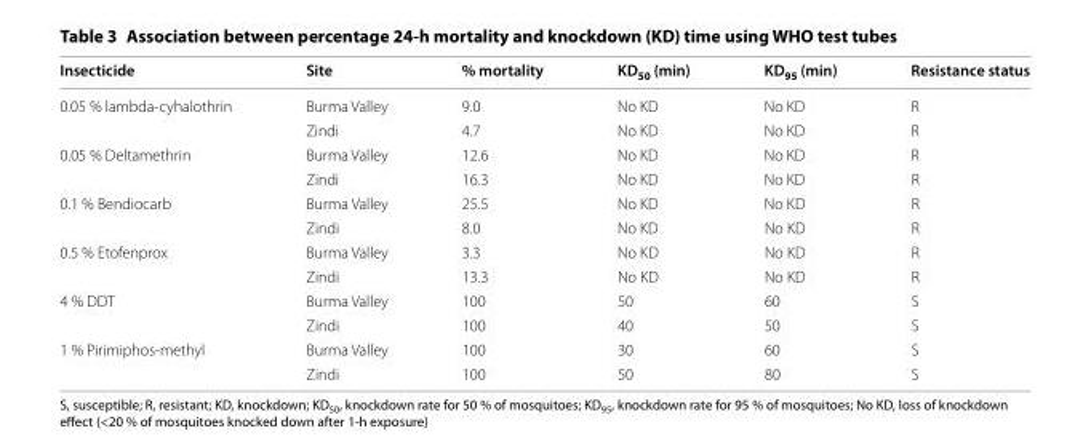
<table><thead><tr><td>Insecticide</td><td>Site</td><td>% mortality</td><td>KD<sub>50</sub> (min)</td><td>KD<sub>95</sub> (min)</td><td>Resistance status</td></tr></thead><tbody><tr><td rowspan="2">0.05 % lambda-cyhalothrin</td><td>Burma Valley</td><td>9.0</td><td>No KD</td><td>No KD</td><td>R</td></tr><tr><td>Zindi</td><td>4.7</td><td>No KD</td><td>No KD</td><td>R</td></tr><tr><td rowspan="2">0.05 % Deltamethrin</td><td>Burma Valley</td><td>12.6</td><td>No KD</td><td>No KD</td><td>R</td></tr><tr><td>Zindi</td><td>16.3</td><td>No KD</td><td>No KD</td><td>R</td></tr><tr><td rowspan="2">0.1 % Bendiocarb</td><td>Burma Valley</td><td>25.5</td><td>No KD</td><td>No KD</td><td>R</td></tr><tr><td>Zindi</td><td>8.0</td><td>No KD</td><td>No KD</td><td>R</td></tr><tr><td rowspan="2">0.5 % Etofenprox</td><td>Burma Valley</td><td>3.3</td><td>No KD</td><td>No KD</td><td>R</td></tr><tr><td>Zindi</td><td>13.3</td><td>No KD</td><td>No KD</td><td>R</td></tr><tr><td rowspan="2">4 % DDT</td><td>Burma Valley</td><td>100</td><td>50</td><td>60</td><td>S</td></tr><tr><td>Zindi</td><td>100</td><td>40</td><td>50</td><td>S</td></tr><tr><td rowspan="2">1 % Pirimiphos-methyl</td><td>Burma Valley</td><td>100</td><td>30</td><td>60</td><td>S</td></tr><tr><td>Zindi</td><td>100</td><td>50</td><td>80</td><td>S</td></tr></tbody></table>